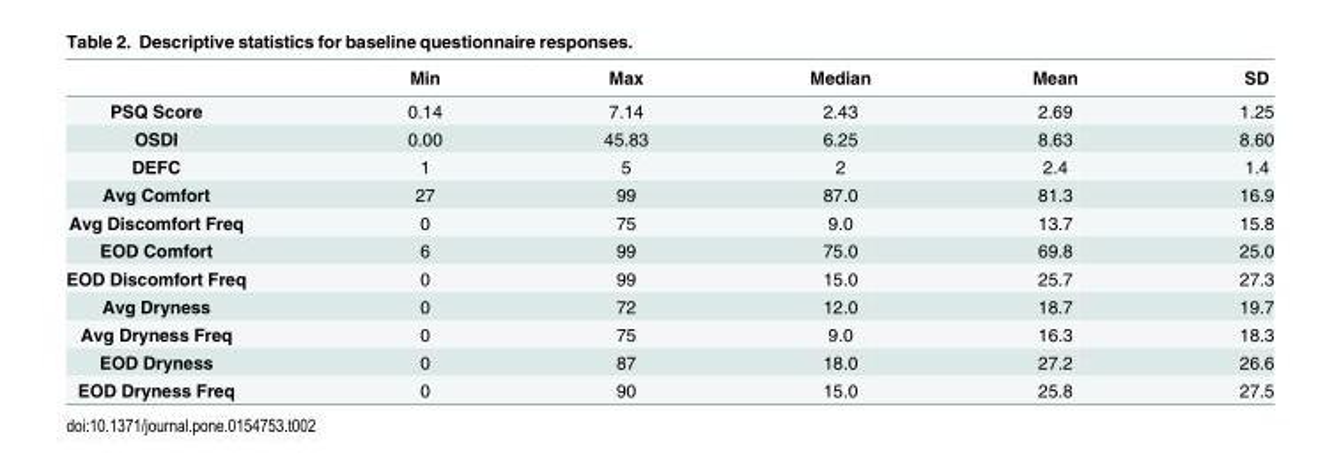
<table><thead><tr><td></td><td>Min</td><td>Max</td><td>Median</td><td>Mean</td><td>SD</td></tr></thead><tbody><tr><td>PSQ Score</td><td>0.14</td><td>7.14</td><td>2.43</td><td>2.69</td><td>1.25</td></tr><tr><td>OSDI</td><td>0.00</td><td>45.83</td><td>6.25</td><td>8.63</td><td>8.60</td></tr><tr><td>DEFC</td><td>1</td><td>5</td><td>2</td><td>2.4</td><td>1.4</td></tr><tr><td>Avg Comfort</td><td>27</td><td>99</td><td>87.0</td><td>81.3</td><td>16.9</td></tr><tr><td>Avg Discomfort Freq</td><td>0</td><td>75</td><td>9.0</td><td>13.7</td><td>15.8</td></tr><tr><td>EOD Comfort</td><td>6</td><td>99</td><td>75.0</td><td>69.8</td><td>25.0</td></tr><tr><td>EOD Discomfort Freq</td><td>0</td><td>99</td><td>15.0</td><td>25.7</td><td>27.3</td></tr><tr><td>Avg Dryness</td><td>0</td><td>72</td><td>12.0</td><td>18.7</td><td>19.7</td></tr><tr><td>Avg Dryness Freq</td><td>0</td><td>75</td><td>9.0</td><td>16.3</td><td>18.3</td></tr><tr><td>EOD Dryness</td><td>0</td><td>87</td><td>18.0</td><td>27.2</td><td>26.6</td></tr><tr><td>EOD Dryness Freq</td><td>0</td><td>90</td><td>15.0</td><td>25.8</td><td>27.5</td></tr></tbody></table>